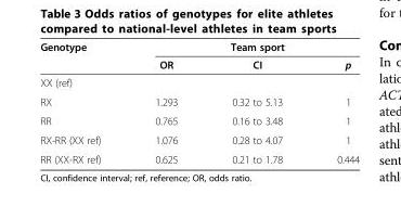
<table><thead><tr><td rowspan="2">Genotype</td><td colspan="3">Team sport</td></tr><tr><td>OR</td><td>CI</td><td>p</td></tr></thead><tbody><tr><td colspan="4">XX (ref)</td></tr><tr><td>RX</td><td>1.293</td><td>0.32 to 5.13</td><td>1</td></tr><tr><td>RR</td><td>0.765</td><td>0.16 to 3.48</td><td>1</td></tr><tr><td>RX-RR (XX ref)</td><td>1.076</td><td>0.28 to 4.07</td><td>1</td></tr><tr><td>RR (XX-RX ref)</td><td>0.625</td><td>0.21 to 1.78</td><td>0.444</td></tr></tbody></table>